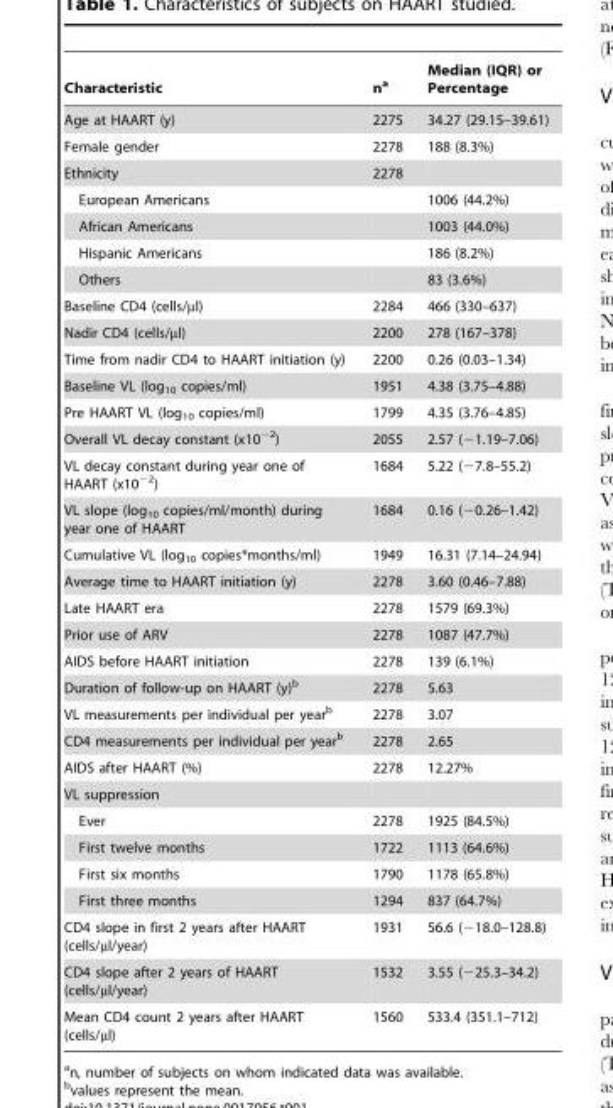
<table><thead><tr><td>Characteristic</td><td>n<sup>a</sup></td><td>Median (IQR) or Percentage</td></tr></thead><tbody><tr><td>Age at HAART (y)</td><td>2275</td><td>34.27 (29.15–39.61)</td></tr><tr><td>Female gender</td><td>2278</td><td>188 (8.3%)</td></tr><tr><td>Ethnicity</td><td>2278</td><td></td></tr><tr><td>European Americans</td><td></td><td>1006 (44.2%)</td></tr><tr><td>African Americans</td><td></td><td>1003 (44.0%)</td></tr><tr><td>Hispanic Americans</td><td></td><td>186 (8.2%)</td></tr><tr><td>Others</td><td></td><td>83 (3.6%)</td></tr><tr><td>Baseline CD4 (cells/µl)</td><td>2284</td><td>466 (330–637)</td></tr><tr><td>Nadir CD4 (cells/µl)</td><td>2200</td><td>278 (167–378)</td></tr><tr><td>Time from nadir CD4 to HAART initiation (y)</td><td>2200</td><td>0.26 (0.03–1.34)</td></tr><tr><td>Baseline VL (log<sub>10</sub> copies/ml)</td><td>1951</td><td>4.38 (3.75–4.88)</td></tr><tr><td>Pre HAART VL (log<sub>10</sub> copies/ml)</td><td>1799</td><td>4.35 (3.76–4.85)</td></tr><tr><td>Overall VL decay constant (x10<sup>−2</sup>)</td><td>2055</td><td>2.57 (−1.19–7.06)</td></tr><tr><td>VL decay constant during year one of HAART (x10<sup>−2</sup>)</td><td>1684</td><td>5.22 (−7.8–55.2)</td></tr><tr><td>VL slope (log<sub>10</sub> copies/ml/month) during year one of HAART</td><td>1684</td><td>0.16 (−0.26–1.42)</td></tr><tr><td>Cumulative VL (log<sub>10</sub> copies*months/ml)</td><td>1949</td><td>16.31 (7.14–24.94)</td></tr><tr><td>Average time to HAART initiation (y)</td><td>2278</td><td>3.60 (0.46–7.88)</td></tr><tr><td>Late HAART era</td><td>2278</td><td>1579 (69.3%)</td></tr><tr><td>Prior use of ARV</td><td>2278</td><td>1087 (47.7%)</td></tr><tr><td>AIDS before HAART initiation</td><td>2278</td><td>139 (6.1%)</td></tr><tr><td>Duration of follow-up on HAART (y)<sup>b</sup></td><td>2278</td><td>5.63</td></tr><tr><td>VL measurements per individual per year<sup>b</sup></td><td>2278</td><td>3.07</td></tr><tr><td>CD4 measurements per individual per year<sup>b</sup></td><td>2278</td><td>2.65</td></tr><tr><td>AIDS after HAART (%)</td><td>2278</td><td>12.27%</td></tr><tr><td colspan="3">VL suppression</td></tr><tr><td>Ever</td><td>2278</td><td>1925 (84.5%)</td></tr><tr><td>First twelve months</td><td>1722</td><td>1113 (64.6%)</td></tr><tr><td>First six months</td><td>1790</td><td>1178 (65.8%)</td></tr><tr><td>First three months</td><td>1294</td><td>837 (64.7%)</td></tr><tr><td>CD4 slope in first 2 years after HAART (cells/µl/year)</td><td>1931</td><td>56.6 (−18.0–128.8)</td></tr><tr><td>CD4 slope after 2 years of HAART (cells/µl/year)</td><td>1532</td><td>3.55 (−25.3–34.2)</td></tr><tr><td>Mean CD4 count 2 years after HAART (cells/µl)</td><td>1560</td><td>533.4 (351.1–712)</td></tr></tbody></table>